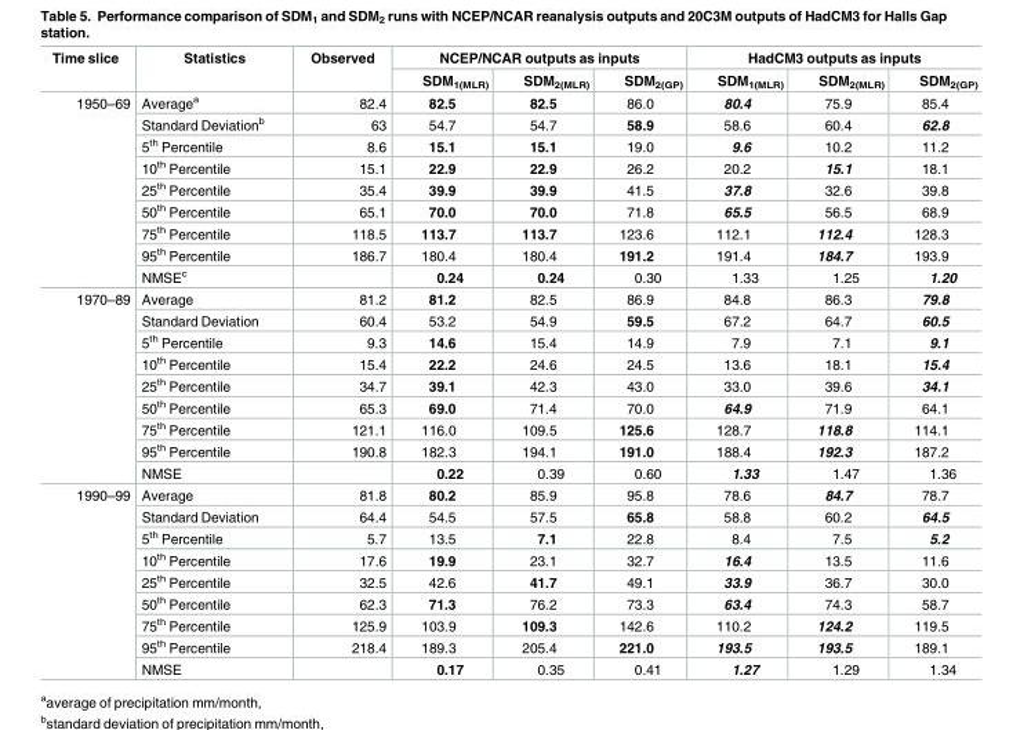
<table><thead><tr><td rowspan="2">Time slice</td><td rowspan="2">Statistics</td><td rowspan="2">Observed</td><td colspan="3">NCEP/NCAR outputs as inputs</td><td colspan="3">HadCM3 outputs as inputs</td></tr><tr><td>SDM<sub>1(MLR)</sub></td><td>SDM<sub>2(MLR)</sub></td><td>SDM<sub>2(GP)</sub></td><td>SDM<sub>1(MLR)</sub></td><td>SDM<sub>2(MLR)</sub></td><td>SDM<sub>2(GP)</sub></td></tr></thead><tbody><tr><td rowspan="9">1950–69</td><td>Average<sup>a</sup></td><td>82.4</td><td>82.5</td><td>82.5</td><td>86.0</td><td>80.4</td><td>75.9</td><td>85.4</td></tr><tr><td>Standard Deviation<sup>b</sup></td><td>63</td><td>54.7</td><td>54.7</td><td>58.9</td><td>58.6</td><td>60.4</td><td>62.8</td></tr><tr><td>5<sup>th</sup> Percentile</td><td>8.6</td><td>15.1</td><td>15.1</td><td>19.0</td><td>9.6</td><td>10.2</td><td>11.2</td></tr><tr><td>10<sup>th</sup> Percentile</td><td>15.1</td><td>22.9</td><td>22.9</td><td>26.2</td><td>20.2</td><td>15.1</td><td>18.1</td></tr><tr><td>25<sup>th</sup> Percentile</td><td>35.4</td><td>39.9</td><td>39.9</td><td>41.5</td><td>37.8</td><td>32.6</td><td>39.8</td></tr><tr><td>50<sup>th</sup> Percentile</td><td>65.1</td><td>70.0</td><td>70.0</td><td>71.8</td><td>65.5</td><td>56.5</td><td>68.9</td></tr><tr><td>75<sup>th</sup> Percentile</td><td>118.5</td><td>113.7</td><td>113.7</td><td>123.6</td><td>112.1</td><td>112.4</td><td>128.3</td></tr><tr><td>95<sup>th</sup> Percentile</td><td>186.7</td><td>180.4</td><td>180.4</td><td>191.2</td><td>191.4</td><td>184.7</td><td>193.9</td></tr><tr><td>NMSE<sup>c</sup></td><td></td><td>0.24</td><td>0.24</td><td>0.30</td><td>1.33</td><td>1.25</td><td>1.20</td></tr><tr><td rowspan="9">1970–89</td><td>Average</td><td>81.2</td><td>81.2</td><td>82.5</td><td>86.9</td><td>84.8</td><td>86.3</td><td>79.8</td></tr><tr><td>Standard Deviation</td><td>60.4</td><td>53.2</td><td>54.9</td><td>59.5</td><td>67.2</td><td>64.7</td><td>60.5</td></tr><tr><td>5<sup>th</sup> Percentile</td><td>9.3</td><td>14.6</td><td>15.4</td><td>14.9</td><td>7.9</td><td>7.1</td><td>9.1</td></tr><tr><td>10<sup>th</sup> Percentile</td><td>15.4</td><td>22.2</td><td>24.6</td><td>24.5</td><td>13.6</td><td>18.1</td><td>15.4</td></tr><tr><td>25<sup>th</sup> Percentile</td><td>34.7</td><td>39.1</td><td>42.3</td><td>43.0</td><td>33.0</td><td>39.6</td><td>34.1</td></tr><tr><td>50<sup>th</sup> Percentile</td><td>65.3</td><td>69.0</td><td>71.4</td><td>70.0</td><td>64.9</td><td>71.9</td><td>64.1</td></tr><tr><td>75<sup>th</sup> Percentile</td><td>121.1</td><td>116.0</td><td>109.5</td><td>125.6</td><td>128.7</td><td>118.8</td><td>114.1</td></tr><tr><td>95<sup>th</sup> Percentile</td><td>190.8</td><td>182.3</td><td>194.1</td><td>191.0</td><td>188.4</td><td>192.3</td><td>187.2</td></tr><tr><td>NMSE</td><td></td><td>0.22</td><td>0.39</td><td>0.60</td><td>1.33</td><td>1.47</td><td>1.36</td></tr><tr><td rowspan="9">1990–99</td><td>Average</td><td>81.8</td><td>80.2</td><td>85.9</td><td>95.8</td><td>78.6</td><td>84.7</td><td>78.7</td></tr><tr><td>Standard Deviation</td><td>64.4</td><td>54.5</td><td>57.5</td><td>65.8</td><td>58.8</td><td>60.2</td><td>64.5</td></tr><tr><td>5<sup>th</sup> Percentile</td><td>5.7</td><td>13.5</td><td>7.1</td><td>22.8</td><td>8.4</td><td>7.5</td><td>5.2</td></tr><tr><td>10<sup>th</sup> Percentile</td><td>17.6</td><td>19.9</td><td>23.1</td><td>32.7</td><td>16.4</td><td>13.5</td><td>11.6</td></tr><tr><td>25<sup>th</sup> Percentile</td><td>32.5</td><td>42.6</td><td>41.7</td><td>49.1</td><td>33.9</td><td>36.7</td><td>30.0</td></tr><tr><td>50<sup>th</sup> Percentile</td><td>62.3</td><td>71.3</td><td>76.2</td><td>73.3</td><td>63.4</td><td>74.3</td><td>58.7</td></tr><tr><td>75<sup>th</sup> Percentile</td><td>125.9</td><td>103.9</td><td>109.3</td><td>142.6</td><td>110.2</td><td>124.2</td><td>119.5</td></tr><tr><td>95<sup>th</sup> Percentile</td><td>218.4</td><td>189.3</td><td>205.4</td><td>221.0</td><td>193.5</td><td>193.5</td><td>189.1</td></tr><tr><td>NMSE</td><td></td><td>0.17</td><td>0.35</td><td>0.41</td><td>1.27</td><td>1.29</td><td>1.34</td></tr></tbody></table>